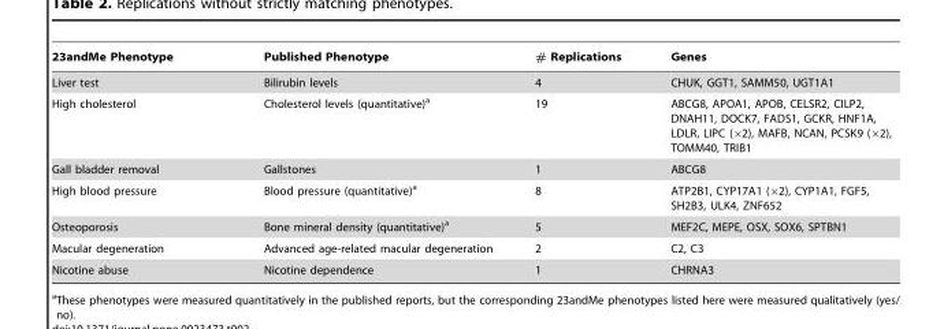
<table><thead><tr><td>23andMe Phenotype</td><td>Published Phenotype</td><td># Replications</td><td>Genes</td></tr></thead><tbody><tr><td>Liver test</td><td>Bilirubin levels</td><td>4</td><td>CHUK, GGT1, SAMM50, UGT1A1</td></tr><tr><td>High cholesterol</td><td>Cholesterol levels (quantitative)<sup>a</sup></td><td>19</td><td>ABCG8, APOA1, APOB, CELSR2, CILP2, DNAH11, DOCK7, FADS1, GCKR, HNF1A, LDLR, LIPC (×2), MAFB, NCAN, PCSK9 (×2), TOMM40, TRIB1</td></tr><tr><td>Gall bladder removal</td><td>Gallstones</td><td>1</td><td>ABCG8</td></tr><tr><td>High blood pressure</td><td>Blood pressure (quantitative)<sup>a</sup></td><td>8</td><td>ATP2B1, CYP17A1 (×2), CYP1A1, FGF5, SH2B3, ULK4, ZNF652</td></tr><tr><td>Osteoporosis</td><td>Bone mineral density (quantitative)<sup>a</sup></td><td>5</td><td>MEF2C, MEPE, OSX, SOX6, SPTBN1</td></tr><tr><td>Macular degeneration</td><td>Advanced age-related macular degeneration</td><td>2</td><td>C2, C3</td></tr><tr><td>Nicotine abuse</td><td>Nicotine dependence</td><td>1</td><td>CHRNA3</td></tr></tbody></table>